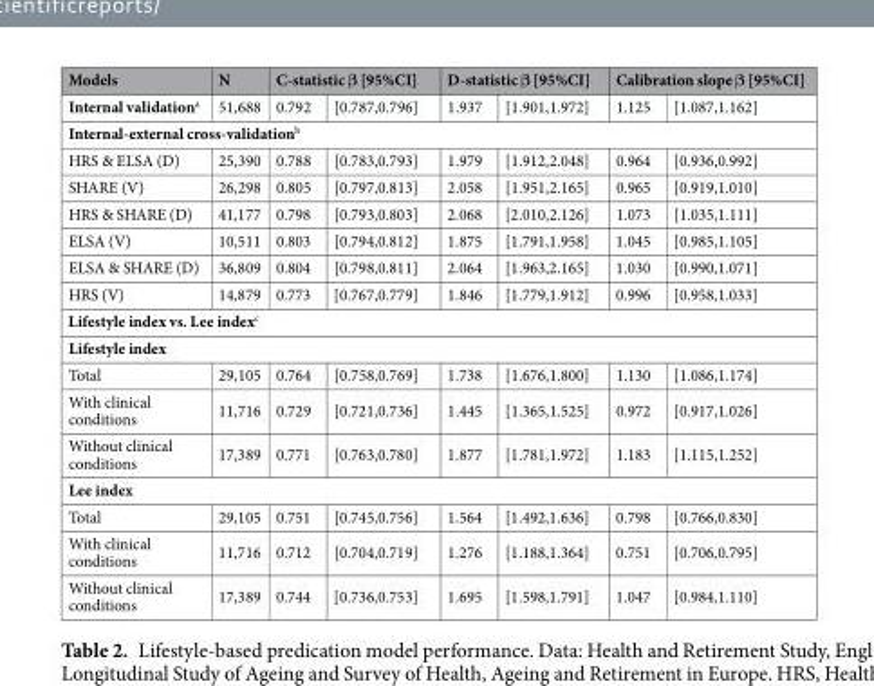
<table><thead><tr><td rowspan="2">Models Internal validation<sup>a</sup></td><td rowspan="2">N 51,688</td><td colspan="2">C-statistic β [95%CI]</td><td colspan="2">D-statistic β [95%CI]</td><td colspan="2">Calibration slope β [95%CI]</td></tr><tr><td>0.792</td><td>[0.787,0.796]</td><td>1.937</td><td>[1.901,1.972]</td><td>1.125</td><td>[1.087,1.162]</td></tr></thead><tbody><tr><td colspan="8">Internal-external cross-validation<sup>b</sup></td></tr><tr><td>HRS &amp; ELSA (D)</td><td>25,390</td><td>0.788</td><td>[0.783,0.793]</td><td>1.979</td><td>[1.912,2.048]</td><td>0.964</td><td>[0.936,0.992]</td></tr><tr><td>SHARE (V)</td><td>26,298</td><td>0.805</td><td>[0.797,0.813]</td><td>2.058</td><td>[1.951,2.165]</td><td>0.965</td><td>[0.919,1.010]</td></tr><tr><td>HRS &amp; SHARE (D)</td><td>41,177</td><td>0.798</td><td>[0.793,0.803]</td><td>2.068</td><td>[2.010,2.126]</td><td>1.073</td><td>[1.035,1.111]</td></tr><tr><td>ELSA (V)</td><td>10,511</td><td>0.803</td><td>[0.794,0.812]</td><td>1.875</td><td>[1.791,1.958]</td><td>1.045</td><td>[0.985,1.105]</td></tr><tr><td>ELSA &amp; SHARE (D)</td><td>36,809</td><td>0.804</td><td>[0.798,0.811]</td><td>2.064</td><td>[1.963,2.165]</td><td>1.030</td><td>[0.990,1.071]</td></tr><tr><td>HRS (V)</td><td>14,879</td><td>0.773</td><td>[0.767,0.779]</td><td>1.846</td><td>[1.779,1.912]</td><td>0.996</td><td>[0.958,1.033]</td></tr><tr><td colspan="8">Lifestyle index vs. Lee index<sup>c</sup></td></tr><tr><td colspan="8">Lifestyle index</td></tr><tr><td>Total</td><td>29,105</td><td>0.764</td><td>[0.758,0.769]</td><td>1.738</td><td>[1.676,1.800]</td><td>1.130</td><td>[1.086,1.174]</td></tr><tr><td>With clinical conditions</td><td>11,716</td><td>0.729</td><td>[0.721,0.736]</td><td>1.445</td><td>[1.365,1.525]</td><td>0.972</td><td>[0.917,1.026]</td></tr><tr><td>Without clinical conditions</td><td>17,389</td><td>0.771</td><td>[0.763,0.780]</td><td>1.877</td><td>[1.781,1.972]</td><td>1.183</td><td>[1.115,1.252]</td></tr><tr><td colspan="8">Lee index</td></tr><tr><td>Total</td><td>29,105</td><td>0.751</td><td>[0.745,0.756]</td><td>1.564</td><td>[1.492,1.636]</td><td>0.798</td><td>[0.766,0.830]</td></tr><tr><td>With clinical conditions</td><td>11,716</td><td>0.712</td><td>[0.704,0.719]</td><td>1.276</td><td>[1.188,1.364]</td><td>0.751</td><td>[0.706,0.795]</td></tr><tr><td>Without clinical conditions</td><td>17,389</td><td>0.744</td><td>[0.736,0.753]</td><td>1.695</td><td>[1.598,1.791]</td><td>1.047</td><td>[0.984,1.110]</td></tr></tbody></table>